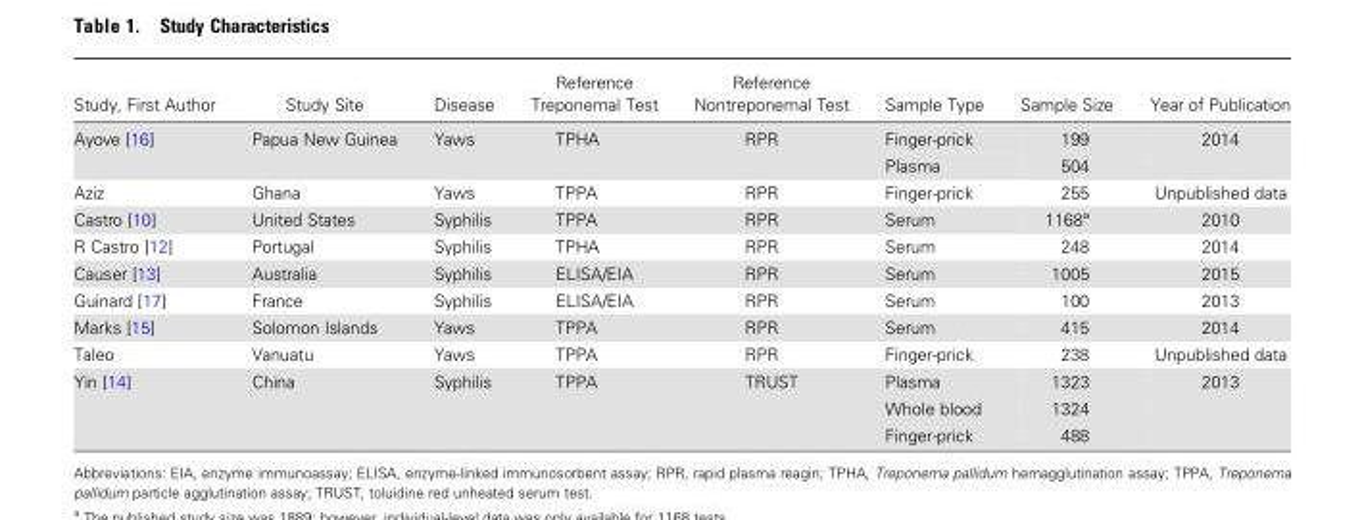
<table><thead><tr><td>Study, First Author</td><td>Study Site</td><td>Disease</td><td>Reference Treponemal Test</td><td>Reference Nontreponemal Test</td><td>Sample Type</td><td>Sample Size</td><td>Year of Publication</td></tr></thead><tbody><tr><td rowspan="2">Ayove [16]</td><td rowspan="2">Papua New Guinea</td><td rowspan="2">Yaws</td><td rowspan="2">TPHA</td><td rowspan="2">RPR</td><td>Finger-prick</td><td>199</td><td rowspan="2">2014</td></tr><tr><td>Plasma</td><td>504</td></tr><tr><td>Aziz</td><td>Ghana</td><td>Yaws</td><td>TPPA</td><td>RPR</td><td>Finger-prick</td><td>255</td><td>Unpublished data</td></tr><tr><td>Castro [10]</td><td>United States</td><td>Syphilis</td><td>TPPA</td><td>RPR</td><td>Serum</td><td>1168<sup>a</sup></td><td>2010</td></tr><tr><td>R Castro [12]</td><td>Portugal</td><td>Syphilis</td><td>TPHA</td><td>RPR</td><td>Serum</td><td>248</td><td>2014</td></tr><tr><td>Causer [13]</td><td>Australia</td><td>Syphilis</td><td>ELISA/EIA</td><td>RPR</td><td>Serum</td><td>1005</td><td>2015</td></tr><tr><td>Guinard [17]</td><td>France</td><td>Syphilis</td><td>ELISA/EIA</td><td>RPR</td><td>Serum</td><td>100</td><td>2013</td></tr><tr><td>Marks [15]</td><td>Solomon Islands</td><td>Yaws</td><td>TPPA</td><td>RPR</td><td>Serum</td><td>415</td><td>2014</td></tr><tr><td>Taleo</td><td>Vanuatu</td><td>Yaws</td><td>TPPA</td><td>RPR</td><td>Finger-prick</td><td>238</td><td>Unpublished data</td></tr><tr><td rowspan="3">Yin [14]</td><td rowspan="3">China</td><td rowspan="3">Syphilis</td><td rowspan="3">TPPA</td><td rowspan="3">TRUST</td><td>Plasma</td><td>1323</td><td rowspan="3">2013</td></tr><tr><td>Whole blood</td><td>1324</td></tr><tr><td>Finger-prick</td><td>488</td></tr></tbody></table>